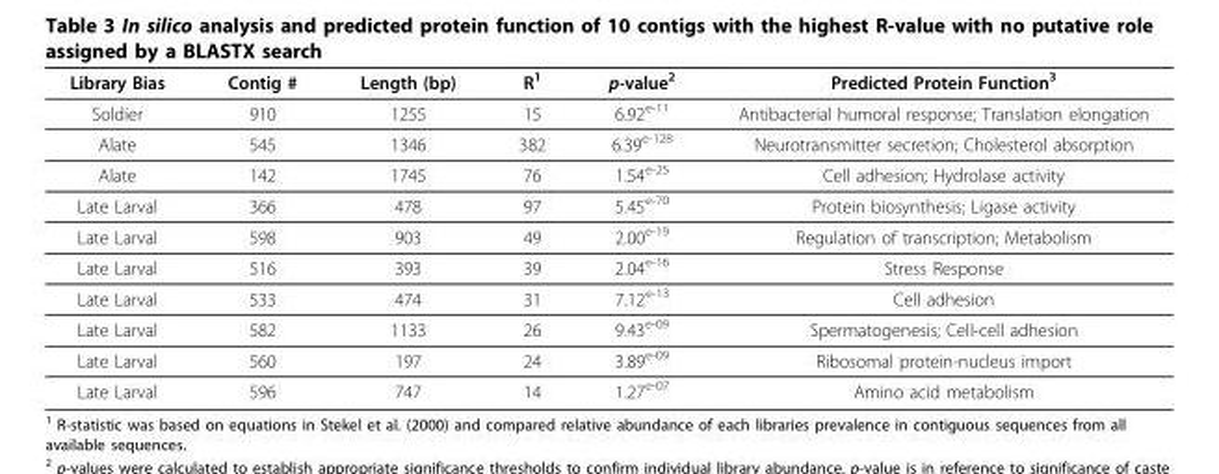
<table><thead><tr><td>Library Bias</td><td>Contig #</td><td>Length (bp)</td><td>R<sup>1</sup></td><td>p-value<sup>2</sup></td><td>Predicted Protein Function<sup>3</sup></td></tr></thead><tbody><tr><td>Soldier</td><td>910</td><td>1255</td><td>15</td><td>6.92<sup>e-11</sup></td><td>Antibacterial humoral response; Translation elongation</td></tr><tr><td>Alate</td><td>545</td><td>1346</td><td>382</td><td>6.39<sup>e-128</sup></td><td>Neurotransmitter secretion; Cholesterol absorption</td></tr><tr><td>Alate</td><td>142</td><td>1745</td><td>76</td><td>1.54<sup>e-25</sup></td><td>Cell adhesion; Hydrolase activity</td></tr><tr><td>Late Larval</td><td>366</td><td>478</td><td>97</td><td>5.45<sup>e-70</sup></td><td>Protein biosynthesis; Ligase activity</td></tr><tr><td>Late Larval</td><td>598</td><td>903</td><td>49</td><td>2.00<sup>e-19</sup></td><td>Regulation of transcription; Metabolism</td></tr><tr><td>Late Larval</td><td>516</td><td>393</td><td>39</td><td>2.04<sup>e-16</sup></td><td>Stress Response</td></tr><tr><td>Late Larval</td><td>533</td><td>474</td><td>31</td><td>7.12<sup>e-13</sup></td><td>Cell adhesion</td></tr><tr><td>Late Larval</td><td>582</td><td>1133</td><td>26</td><td>9.43<sup>e-09</sup></td><td>Spermatogenesis; Cell-cell adhesion</td></tr><tr><td>Late Larval</td><td>560</td><td>197</td><td>24</td><td>3.89<sup>e-09</sup></td><td>Ribosomal protein-nucleus import</td></tr><tr><td>Late Larval</td><td>596</td><td>747</td><td>14</td><td>1.27<sup>e-07</sup></td><td>Amino acid metabolism</td></tr></tbody></table>